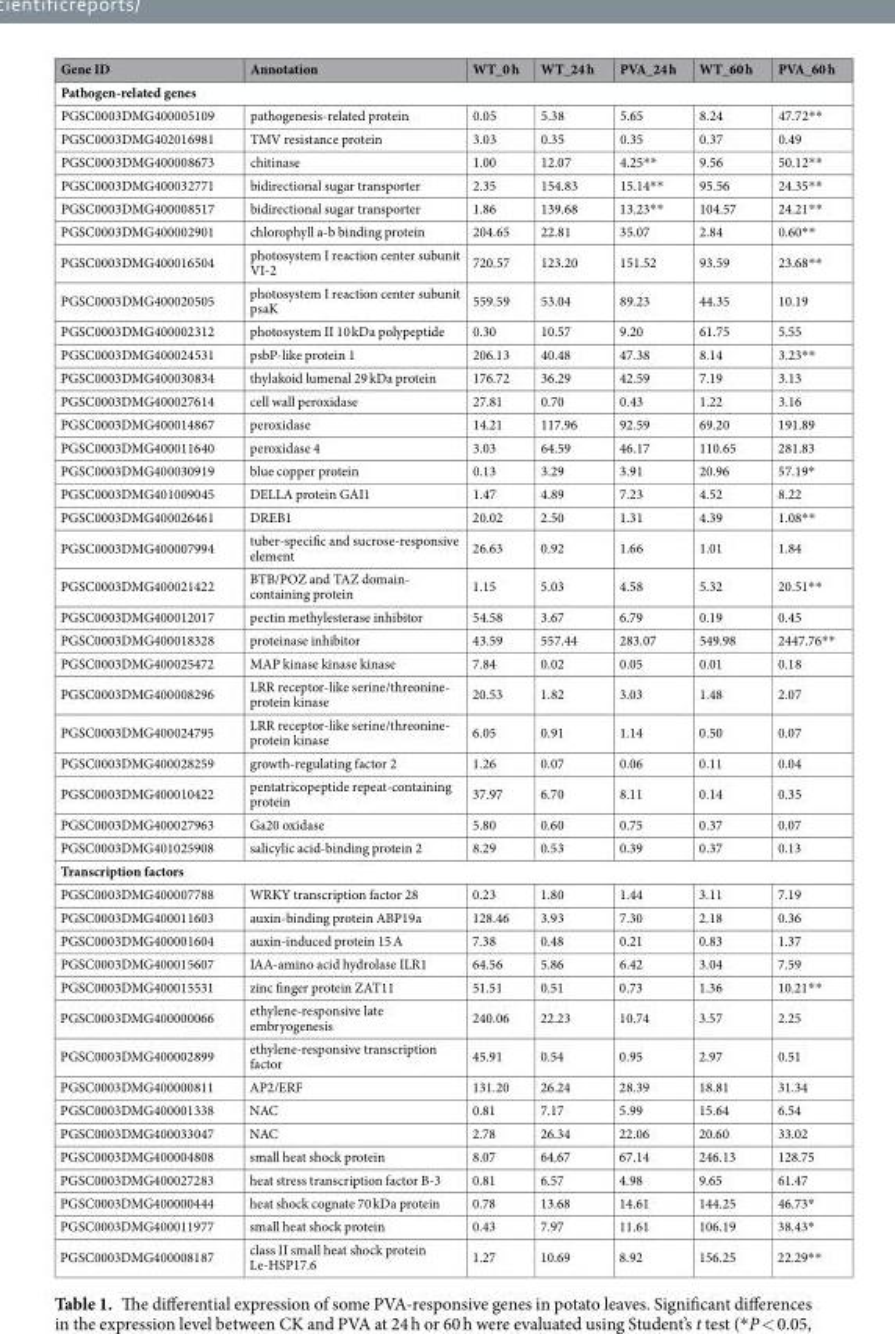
<table><thead><tr><td>Gene ID</td><td>Annotation</td><td>WT_0 h</td><td>WT_24 h</td><td>PVA_24 h</td><td>WT_60 h</td><td>PVA_60 h</td></tr></thead><tbody><tr><td colspan="7">Pathogen-related genes</td></tr><tr><td>PGSC0003DMG400005109</td><td>pathogenesis-related protein</td><td>0.05</td><td>5.38</td><td>5.65</td><td>8.24</td><td>47.72**</td></tr><tr><td>PGSC0003DMG402016981</td><td>TMV resistance protein</td><td>3.03</td><td>0.35</td><td>0.35</td><td>0.37</td><td>0.49</td></tr><tr><td>PGSC0003DMG400008673</td><td>chitinase</td><td>1.00</td><td>12.07</td><td>4.25**</td><td>9.56</td><td>50.12**</td></tr><tr><td>PGSC0003DMG400032771</td><td>bidirectional sugar transporter</td><td>2.35</td><td>154.83</td><td>15.14**</td><td>95.56</td><td>24.35**</td></tr><tr><td>PGSC0003DMG400008517</td><td>bidirectional sugar transporter</td><td>1.86</td><td>139.68</td><td>13.23**</td><td>104.57</td><td>24.21**</td></tr><tr><td>PGSC0003DMG400002901</td><td>chlorophyll a-b binding protein</td><td>204.65</td><td>22.81</td><td>35.07</td><td>2.84</td><td>0.60**</td></tr><tr><td>PGSC0003DMG400016504</td><td>photosystem I reaction center subunit VI-2</td><td>720.57</td><td>123.20</td><td>151.52</td><td>93.59</td><td>23.68**</td></tr><tr><td>PGSC0003DMG400020505</td><td>photosystem I reaction center subunit psaK</td><td>559.59</td><td>53.04</td><td>89.23</td><td>44.35</td><td>10.19</td></tr><tr><td>PGSC0003DMG400002312</td><td>photosystem II 10 kDa polypeptide</td><td>0.30</td><td>10.57</td><td>9.20</td><td>61.75</td><td>5.55</td></tr><tr><td>PGSC0003DMG400024531</td><td>psbP-like protein 1</td><td>206.13</td><td>40.48</td><td>47.38</td><td>8.14</td><td>3.23**</td></tr><tr><td>PGSC0003DMG400030834</td><td>thylakoid lumenal 29 kDa protein</td><td>176.72</td><td>36.29</td><td>42.59</td><td>7.19</td><td>3.13</td></tr><tr><td>PGSC0003DMG400027614</td><td>cell wall peroxidase</td><td>27.81</td><td>0.70</td><td>0.43</td><td>1.22</td><td>3.16</td></tr><tr><td>PGSC0003DMG400014867</td><td>peroxidase</td><td>14.21</td><td>117.96</td><td>92.59</td><td>69.20</td><td>191.89</td></tr><tr><td>PGSC0003DMG400011640</td><td>peroxidase 4</td><td>3.03</td><td>64.59</td><td>46.17</td><td>110.65</td><td>281.83</td></tr><tr><td>PGSC0003DMG400030919</td><td>blue copper protein</td><td>0.13</td><td>3.29</td><td>3.91</td><td>20.96</td><td>57.19*</td></tr><tr><td>PGSC0003DMG401009045</td><td>DELLA protein GAI1</td><td>1.47</td><td>4.89</td><td>7.23</td><td>4.52</td><td>8.22</td></tr><tr><td>PGSC0003DMG400026461</td><td>DREB1</td><td>20.02</td><td>2.50</td><td>1.31</td><td>4.39</td><td>1.08**</td></tr><tr><td>PGSC0003DMG400007994</td><td>tuber-specific and sucrose-responsive element</td><td>26.63</td><td>0.92</td><td>1.66</td><td>1.01</td><td>1.84</td></tr><tr><td>PGSC0003DMG400021422</td><td>BTB/POZ and TAZ domain- containing protein</td><td>1.15</td><td>5.03</td><td>4.58</td><td>5.32</td><td>20.51**</td></tr><tr><td>PGSC0003DMG400012017</td><td>pectin methylesterase inhibitor</td><td>54.58</td><td>3.67</td><td>6.79</td><td>0.19</td><td>0.45</td></tr><tr><td>PGSC0003DMG400018328</td><td>proteinase inhibitor</td><td>43.59</td><td>557.44</td><td>283.07</td><td>549.98</td><td>2447.76**</td></tr><tr><td>PGSC0003DMG400025472</td><td>MAP kinase kinase kinase</td><td>7.84</td><td>0.02</td><td>0.05</td><td>0.01</td><td>0.18</td></tr><tr><td>PGSC0003DMG400008296</td><td>LRR receptor-like serine/threonine- protein kinase</td><td>20.53</td><td>1.82</td><td>3.03</td><td>1.48</td><td>2.07</td></tr><tr><td>PGSC0003DMG400024795</td><td>LRR receptor-like serine/threonine- protein kinase</td><td>6.05</td><td>0.91</td><td>1.14</td><td>0.50</td><td>0.07</td></tr><tr><td>PGSC0003DMG400028259</td><td>growth-regulating factor 2</td><td>1.26</td><td>0.07</td><td>0.06</td><td>0.11</td><td>0.04</td></tr><tr><td>PGSC0003DMG400010422</td><td>pentatricopeptide repeat-containing protein</td><td>37.97</td><td>6.70</td><td>8.11</td><td>0.14</td><td>0.35</td></tr><tr><td>PGSC0003DMG400027963</td><td>Ga20 oxidase</td><td>5.80</td><td>0.60</td><td>0.75</td><td>0.37</td><td>0.07</td></tr><tr><td>PGSC0003DMG401025908</td><td>salicylic acid-binding protein 2</td><td>8.29</td><td>0.53</td><td>0.39</td><td>0.37</td><td>0.13</td></tr><tr><td colspan="7">Transcription factors</td></tr><tr><td>PGSC0003DMG400007788</td><td>WRKY transcription factor 28</td><td>0.23</td><td>1.80</td><td>1.44</td><td>3.11</td><td>7.19</td></tr><tr><td>PGSC0003DMG400011603</td><td>auxin-binding protein ABP19a</td><td>128.46</td><td>3.93</td><td>7.30</td><td>2.18</td><td>0.36</td></tr><tr><td>PGSC0003DMG400001604</td><td>auxin-induced protein 15 A</td><td>7.38</td><td>0.48</td><td>0.21</td><td>0.83</td><td>1.37</td></tr><tr><td>PGSC0003DMG400015607</td><td>IAA-amino acid hydrolase ILR1</td><td>64.56</td><td>5.86</td><td>6.42</td><td>3.04</td><td>7.59</td></tr><tr><td>PGSC0003DMG400015531</td><td>zinc finger protein ZAT11</td><td>51.51</td><td>0.51</td><td>0.73</td><td>1.36</td><td>10.21**</td></tr><tr><td>PGSC0003DMG400000066</td><td>ethylene-responsive late embryogenesis</td><td>240.06</td><td>22.23</td><td>10.74</td><td>3.57</td><td>2.25</td></tr><tr><td>PGSC0003DMG400002899</td><td>ethylene-responsive transcription factor</td><td>45.91</td><td>0.54</td><td>0.95</td><td>2.97</td><td>0.51</td></tr><tr><td>PGSC0003DMG400000811</td><td>AP2/ERF</td><td>131.20</td><td>26.24</td><td>28.39</td><td>18.81</td><td>31.34</td></tr><tr><td>PGSC0003DMG400001338</td><td>NAC</td><td>0.81</td><td>7.17</td><td>5.99</td><td>15.64</td><td>6.54</td></tr><tr><td>PGSC0003DMG400033047</td><td>NAC</td><td>2.78</td><td>26.34</td><td>22.06</td><td>20.60</td><td>33.02</td></tr><tr><td>PGSC0003DMG400004808</td><td>small heat shock protein</td><td>8.07</td><td>64.67</td><td>67.14</td><td>246.13</td><td>128.75</td></tr><tr><td>PGSC0003DMG400027283</td><td>heat stress transcription factor B-3</td><td>0.81</td><td>6.57</td><td>4.98</td><td>9.65</td><td>61.47</td></tr><tr><td>PGSC0003DMG400000444</td><td>heat shock cognate 70 kDa protein</td><td>0.78</td><td>13.68</td><td>14.61</td><td>144.25</td><td>46.73*</td></tr><tr><td>PGSC0003DMG400011977</td><td>small heat shock protein</td><td>0.43</td><td>7.97</td><td>11.61</td><td>106.19</td><td>38.43*</td></tr><tr><td>PGSC0003DMG400008187</td><td>class II small heat shock protein Le-HSP17.6</td><td>1.27</td><td>10.69</td><td>8.92</td><td>156.25</td><td>22.29**</td></tr></tbody></table>